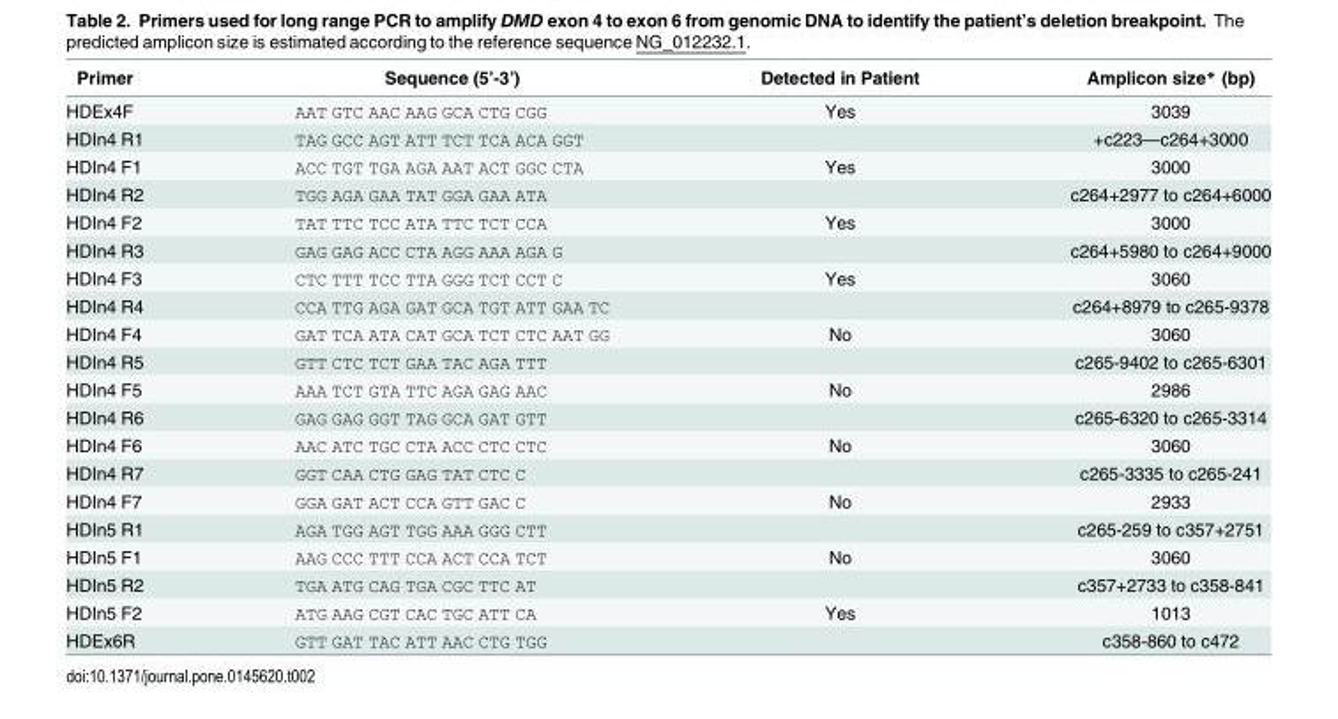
<table><thead><tr><td>Primer</td><td>Sequence (5’-3’)</td><td>Detected in Patient</td><td>Amplicon size* (bp)</td></tr></thead><tbody><tr><td>HDEx4F</td><td>AAT GTC AAC AAG GCA CTG CGG</td><td>Yes</td><td>3039</td></tr><tr><td>HDIn4 R1</td><td>TAG GCC AGT ATT TCT TCA ACA GGT</td><td></td><td>+c223—c264+3000</td></tr><tr><td>HDIn4 F1</td><td>ACC TGT TGA AGA AAT ACT GGC CTA</td><td>Yes</td><td>3000</td></tr><tr><td>HDIn4 R2</td><td>TGG AGA GAA TAT GGA GAA ATA</td><td></td><td>c264+2977 to c264+6000</td></tr><tr><td>HDIn4 F2</td><td>TAT TTC TCC ATA TTC TCT CCA</td><td>Yes</td><td>3000</td></tr><tr><td>HDIn4 R3</td><td>GAG GAG ACC CTA AGG AAA AGA G</td><td></td><td>c264+5980 to c264+9000</td></tr><tr><td>HDIn4 F3</td><td>CTC TTT TCC TTA GGG TCT CCT C</td><td>Yes</td><td>3060</td></tr><tr><td>HDIn4 R4</td><td>CCA TTG AGA GAT GCA TGT ATT GAA TC</td><td></td><td>c264+8979 to c265-9378</td></tr><tr><td>HDIn4 F4</td><td>GAT TCA ATA CAT GCA TCT CTC AAT GG</td><td>No</td><td>3060</td></tr><tr><td>HDIn4 R5</td><td>GTT CTC TCT GAA TAC AGA TTT</td><td></td><td>c265-9402 to c265-6301</td></tr><tr><td>HDIn4 F5</td><td>AAA TCT GTA TTC AGA GAG AAC</td><td>No</td><td>2986</td></tr><tr><td>HDIn4 R6</td><td>GAG GAG GGT TAG GCA GAT GTT</td><td></td><td>c265-6320 to c265-3314</td></tr><tr><td>HDIn4 F6</td><td>AAC ATC TGC CTA ACC CTC CTC</td><td>No</td><td>3060</td></tr><tr><td>HDIn4 R7</td><td>GGT CAA CTG GAG TAT CTC C</td><td></td><td>c265-3335 to c265-241</td></tr><tr><td>HDIn4 F7</td><td>GGA GAT ACT CCA GTT GAC C</td><td>No</td><td>2933</td></tr><tr><td>HDIn5 R1</td><td>AGA TGG AGT TGG AAA GGG CTT</td><td></td><td>c265-259 to c357+2751</td></tr><tr><td>HDIn5 F1</td><td>AAG CCC TTT CCA ACT CCA TCT</td><td>No</td><td>3060</td></tr><tr><td>HDIn5 R2</td><td>TGA ATG CAG TGA CGC TTC AT</td><td></td><td>c357+2733 to c358-841</td></tr><tr><td>HDIn5 F2</td><td>ATG AAG CGT CAC TGC ATT CA</td><td>Yes</td><td>1013</td></tr><tr><td>HDEx6R</td><td>GTT GAT TAC ATT AAC CTG TGG</td><td></td><td>c358-860 to c472</td></tr></tbody></table>